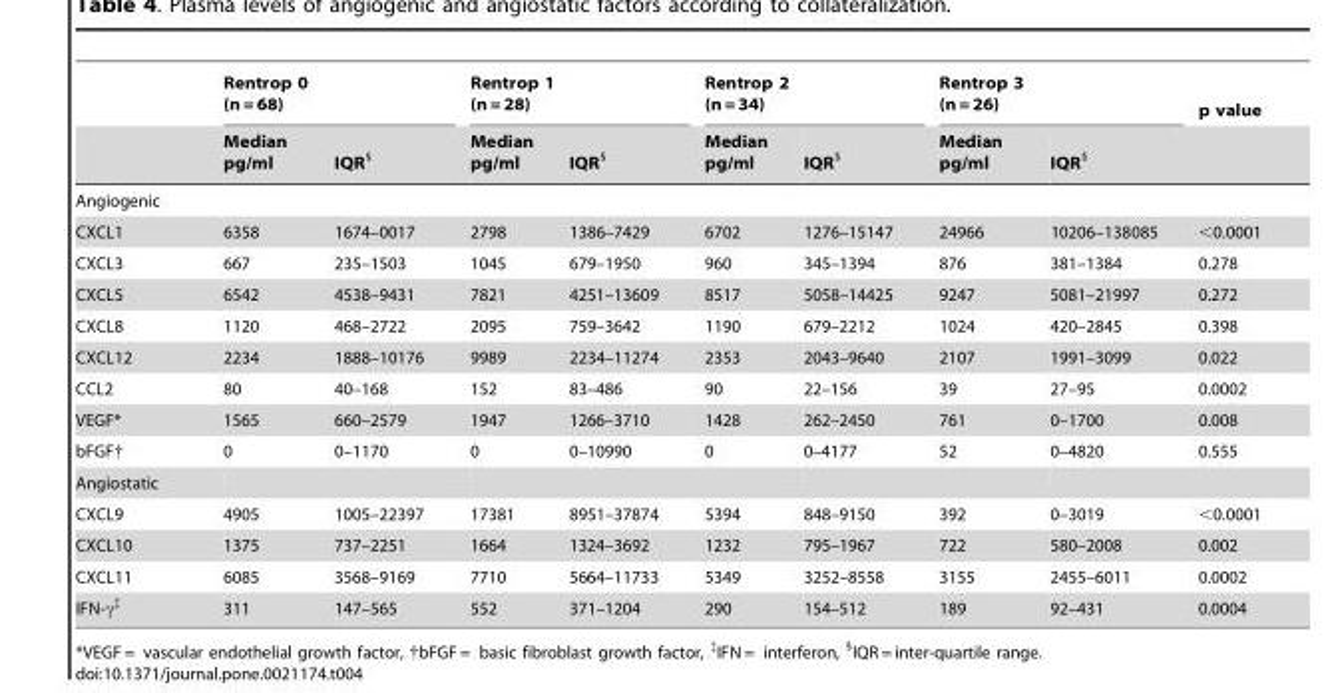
<table><thead><tr><td rowspan="2"></td><td colspan="2">Rentrop 0 (n = 68)</td><td colspan="2">Rentrop 1 (n = 28)</td><td colspan="2">Rentrop 2 (n = 34)</td><td colspan="2">Rentrop 3 (n = 26)</td><td rowspan="2">p value</td></tr><tr><td>Median pg/ml</td><td>IQR<sup>§</sup></td><td>Median pg/ml</td><td>IQR<sup>§</sup></td><td>Median pg/ml</td><td>IQR<sup>§</sup></td><td>Median pg/ml</td><td>IQR<sup>§</sup></td></tr></thead><tbody><tr><td colspan="10">Angiogenic</td></tr><tr><td>CXCL1</td><td>6358</td><td>1674–0017</td><td>2798</td><td>1386–7429</td><td>6702</td><td>1276–15147</td><td>24966</td><td>10206–138085</td><td>&lt;0.0001</td></tr><tr><td>CXCL3</td><td>667</td><td>235–1503</td><td>1045</td><td>679–1950</td><td>960</td><td>345–1394</td><td>876</td><td>381–1384</td><td>0.278</td></tr><tr><td>CXCL5</td><td>6542</td><td>4538–9431</td><td>7821</td><td>4251–13609</td><td>8517</td><td>5058–14425</td><td>9247</td><td>5081–21997</td><td>0.272</td></tr><tr><td>CXCL8</td><td>1120</td><td>468–2722</td><td>2095</td><td>759–3642</td><td>1190</td><td>679–2212</td><td>1024</td><td>420–2845</td><td>0.398</td></tr><tr><td>CXCL12</td><td>2234</td><td>1888–10176</td><td>9989</td><td>2234–11274</td><td>2353</td><td>2043–9640</td><td>2107</td><td>1991–3099</td><td>0.022</td></tr><tr><td>CCL2</td><td>80</td><td>40–168</td><td>152</td><td>83–486</td><td>90</td><td>22–156</td><td>39</td><td>27–95</td><td>0.0002</td></tr><tr><td>VEGF*</td><td>1565</td><td>660–2579</td><td>1947</td><td>1266–3710</td><td>1428</td><td>262–2450</td><td>761</td><td>0–1700</td><td>0.008</td></tr><tr><td>bFGF†</td><td>0</td><td>0–1170</td><td>0</td><td>0–10990</td><td>0</td><td>0–4177</td><td>52</td><td>0–4820</td><td>0.555</td></tr><tr><td colspan="10">Angiostatic</td></tr><tr><td>CXCL9</td><td>4905</td><td>1005–22397</td><td>17381</td><td>8951–37874</td><td>5394</td><td>848–9150</td><td>392</td><td>0–3019</td><td>&lt;0.0001</td></tr><tr><td>CXCL10</td><td>1375</td><td>737–2251</td><td>1664</td><td>1324–3692</td><td>1232</td><td>795–1967</td><td>722</td><td>580–2008</td><td>0.002</td></tr><tr><td>CXCL11</td><td>6085</td><td>3568–9169</td><td>7710</td><td>5664–11733</td><td>5349</td><td>3252–8558</td><td>3155</td><td>2455–6011</td><td>0.0002</td></tr><tr><td>IFN-γ<sup>‡</sup></td><td>311</td><td>147–565</td><td>552</td><td>371–1204</td><td>290</td><td>154–512</td><td>189</td><td>92–431</td><td>0.0004</td></tr></tbody></table>